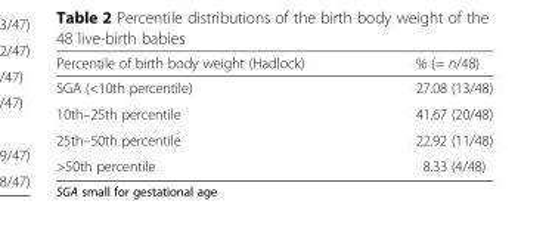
<table><thead><tr><td>Percentile of birth body weight (Hadlock)</td><td>% (= n/48)</td></tr></thead><tbody><tr><td>SGA (&lt;10th percentile)</td><td>27.08 (13/48)</td></tr><tr><td>10th–25th percentile</td><td>41.67 (20/48)</td></tr><tr><td>25th–50th percentile</td><td>22.92 (11/48)</td></tr><tr><td>&gt;50th percentile</td><td>8.33 (4/48)</td></tr></tbody></table>